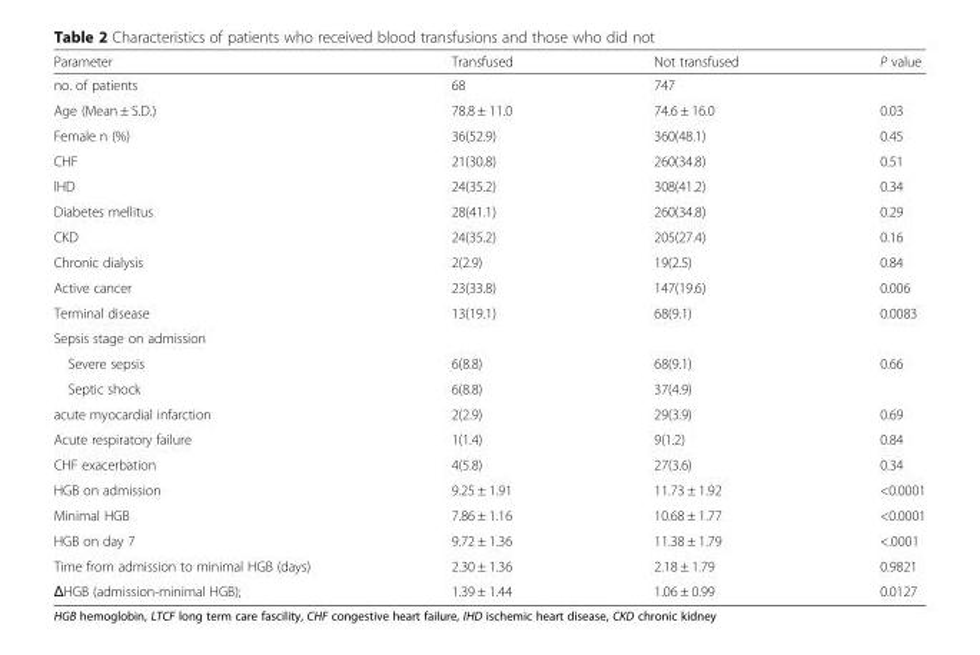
<table><thead><tr><td>Parameter</td><td>Transfused</td><td>Not transfused</td><td>P value</td></tr></thead><tbody><tr><td>no. of patients</td><td>68</td><td>747</td><td></td></tr><tr><td>Age (Mean ± S.D.)</td><td>78.8 ± 11.0</td><td>74.6 ± 16.0</td><td>0.03</td></tr><tr><td>Female n (%)</td><td>36(52.9)</td><td>360(48.1)</td><td>0.45</td></tr><tr><td>CHF</td><td>21(30.8)</td><td>260(34.8)</td><td>0.51</td></tr><tr><td>IHD</td><td>24(35.2)</td><td>308(41.2)</td><td>0.34</td></tr><tr><td>Diabetes mellitus</td><td>28(41.1)</td><td>260(34.8)</td><td>0.29</td></tr><tr><td>CKD</td><td>24(35.2)</td><td>205(27.4)</td><td>0.16</td></tr><tr><td>Chronic dialysis</td><td>2(2.9)</td><td>19(2.5)</td><td>0.84</td></tr><tr><td>Active cancer</td><td>23(33.8)</td><td>147(19.6)</td><td>0.006</td></tr><tr><td>Terminal disease</td><td>13(19.1)</td><td>68(9.1)</td><td>0.0083</td></tr><tr><td colspan="4">Sepsis stage on admission</td></tr><tr><td>Severe sepsis</td><td>6(8.8)</td><td>68(9.1)</td><td>0.66</td></tr><tr><td>Septic shock</td><td>6(8.8)</td><td>37(4.9)</td><td></td></tr><tr><td>acute myocardial infarction</td><td>2(2.9)</td><td>29(3.9)</td><td>0.69</td></tr><tr><td>Acute respiratory failure</td><td>1(1.4)</td><td>9(1.2)</td><td>0.84</td></tr><tr><td>CHF exacerbation</td><td>4(5.8)</td><td>27(3.6)</td><td>0.34</td></tr><tr><td>HGB on admission</td><td>9.25 ± 1.91</td><td>11.73 ± 1.92</td><td>&lt;0.0001</td></tr><tr><td>Minimal HGB</td><td>7.86 ± 1.16</td><td>10.68 ± 1.77</td><td>&lt;0.0001</td></tr><tr><td>HGB on day 7</td><td>9.72 ± 1.36</td><td>11.38 ± 1.79</td><td>&lt;.0001</td></tr><tr><td>Time from admission to minimal HGB (days)</td><td>2.30 ± 1.36</td><td>2.18 ± 1.79</td><td>0.9821</td></tr><tr><td>ΔHGB (admission-minimal HGB);</td><td>1.39 ± 1.44</td><td>1.06 ± 0.99</td><td>0.0127</td></tr></tbody></table>